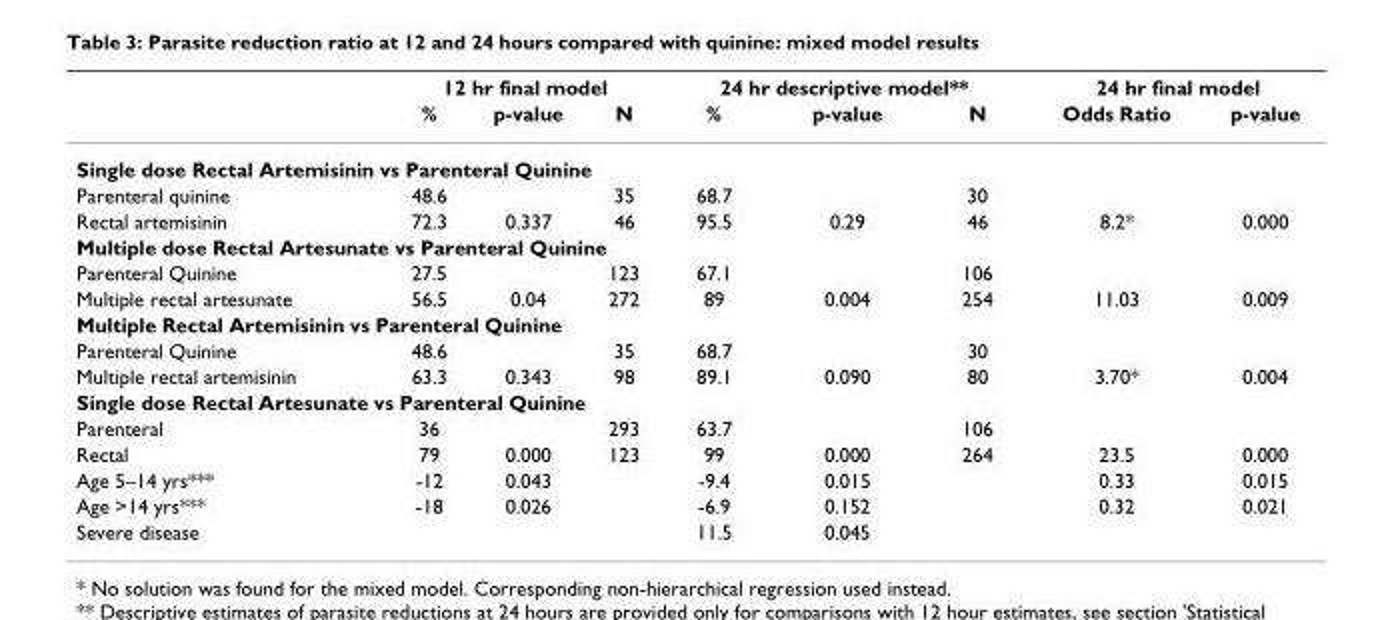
<table><thead><tr><td rowspan="2"></td><td colspan="3">12 hr final model</td><td colspan="3">24 hr descriptive model**</td><td colspan="2">24 hr final model</td></tr><tr><td>%</td><td>p-value</td><td>N</td><td>%</td><td>p-value</td><td>N</td><td>Odds Ratio</td><td>p-value</td></tr></thead><tbody><tr><td colspan="9">Single dose Rectal Artemisinin vs Parenteral Quinine</td></tr><tr><td>Parenteral quinine</td><td>48.6</td><td></td><td>35</td><td>68.7</td><td></td><td>30</td><td></td><td></td></tr><tr><td>Rectal artemisinin</td><td>72.3</td><td>0.337</td><td>46</td><td>95.5</td><td>0.29</td><td>46</td><td>8.2*</td><td>0.000</td></tr><tr><td colspan="9">Multiple dose Rectal Artesunate vs Parenteral Quinine</td></tr><tr><td>Parenteral Quinine</td><td>27.5</td><td></td><td>123</td><td>67.1</td><td></td><td>106</td><td></td><td></td></tr><tr><td>Multiple rectal artesunate</td><td>56.5</td><td>0.04</td><td>272</td><td>89</td><td>0.004</td><td>254</td><td>11.03</td><td>0.009</td></tr><tr><td colspan="9">Multiple Rectal Artemisinin vs Parenteral Quinine</td></tr><tr><td>Parenteral Quinine</td><td>48.6</td><td></td><td>35</td><td>68.7</td><td></td><td>30</td><td></td><td></td></tr><tr><td>Multiple rectal artemisinin</td><td>63.3</td><td>0.343</td><td>98</td><td>89.1</td><td>0.090</td><td>80</td><td>3.70*</td><td>0.004</td></tr><tr><td colspan="9">Single dose Rectal Artesunate vs Parenteral Quinine</td></tr><tr><td>Parenteral</td><td>36</td><td></td><td>293</td><td>63.7</td><td></td><td>106</td><td></td><td></td></tr><tr><td>Rectal</td><td>79</td><td>0.000</td><td>123</td><td>99</td><td>0.000</td><td>264</td><td>23.5</td><td>0.000</td></tr><tr><td>Age 5–14 yrs***</td><td>-12</td><td>0.043</td><td></td><td>-9.4</td><td>0.015</td><td></td><td>0.33</td><td>0.015</td></tr><tr><td>Age &gt;14 yrs***</td><td>-18</td><td>0.026</td><td></td><td>-6.9</td><td>0.152</td><td></td><td>0.32</td><td>0.021</td></tr><tr><td>Severe disease</td><td></td><td></td><td></td><td>11.5</td><td>0.045</td><td></td><td></td><td></td></tr></tbody></table>